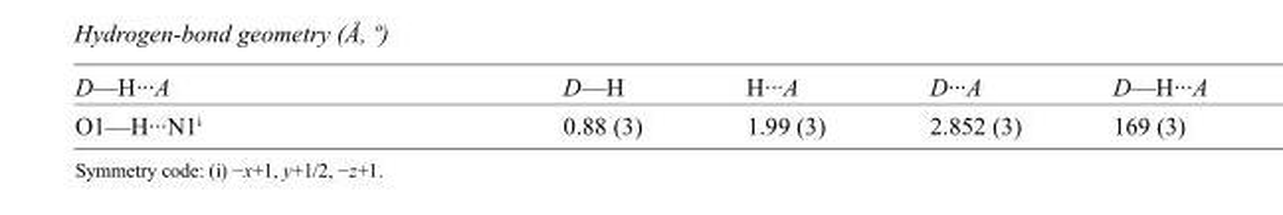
<table><tbody><tr><td>D—H···A</td><td>D—H</td><td>H···A</td><td>D···A</td><td>D—H···A</td></tr><tr><td>O1—H···N1<sup>i</sup></td><td>0.88 (3)</td><td>1.99 (3)</td><td>2.852 (3)</td><td>169 (3)</td></tr></tbody></table>